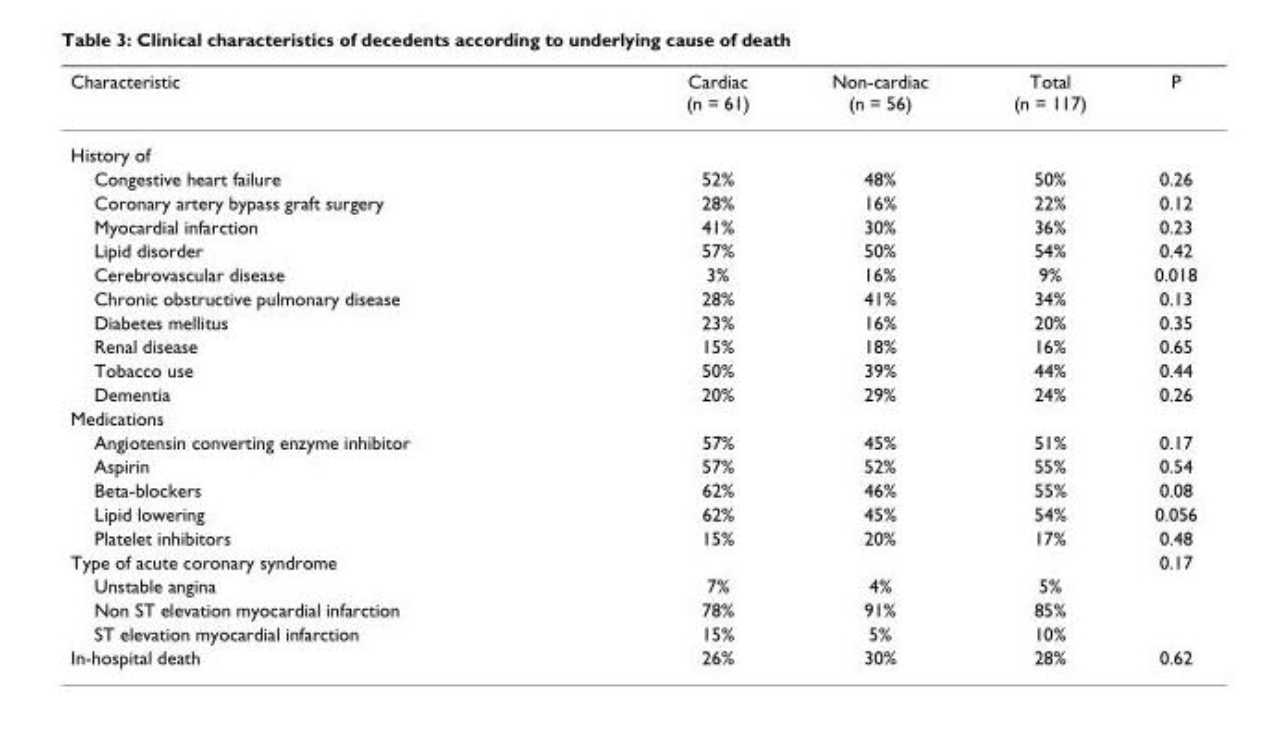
<table><thead><tr><td>Characteristic</td><td>Cardiac (n = 61)</td><td>Non-cardiac (n = 56)</td><td>Total (n = 117)</td><td>P</td></tr></thead><tbody><tr><td colspan="5">History of</td></tr><tr><td>Congestive heart failure</td><td>52%</td><td>48%</td><td>50%</td><td>0.26</td></tr><tr><td>Coronary artery bypass graft surgery</td><td>28%</td><td>16%</td><td>22%</td><td>0.12</td></tr><tr><td>Myocardial infarction</td><td>41%</td><td>30%</td><td>36%</td><td>0.23</td></tr><tr><td>Lipid disorder</td><td>57%</td><td>50%</td><td>54%</td><td>0.42</td></tr><tr><td>Cerebrovascular disease</td><td>3%</td><td>16%</td><td>9%</td><td>0.018</td></tr><tr><td>Chronic obstructive pulmonary disease</td><td>28%</td><td>41%</td><td>34%</td><td>0.13</td></tr><tr><td>Diabetes mellitus</td><td>23%</td><td>16%</td><td>20%</td><td>0.35</td></tr><tr><td>Renal disease</td><td>15%</td><td>18%</td><td>16%</td><td>0.65</td></tr><tr><td>Tobacco use</td><td>50%</td><td>39%</td><td>44%</td><td>0.44</td></tr><tr><td>Dementia</td><td>20%</td><td>29%</td><td>24%</td><td>0.26</td></tr><tr><td colspan="5">Medications</td></tr><tr><td>Angiotensin converting enzyme inhibitor</td><td>57%</td><td>45%</td><td>51%</td><td>0.17</td></tr><tr><td>Aspirin</td><td>57%</td><td>52%</td><td>55%</td><td>0.54</td></tr><tr><td>Beta-blockers</td><td>62%</td><td>46%</td><td>55%</td><td>0.08</td></tr><tr><td>Lipid lowering</td><td>62%</td><td>45%</td><td>54%</td><td>0.056</td></tr><tr><td>Platelet inhibitors</td><td>15%</td><td>20%</td><td>17%</td><td>0.48</td></tr><tr><td>Type of acute coronary syndrome</td><td></td><td></td><td></td><td>0.17</td></tr><tr><td>Unstable angina</td><td>7%</td><td>4%</td><td>5%</td><td></td></tr><tr><td>Non ST elevation myocardial infarction</td><td>78%</td><td>91%</td><td>85%</td><td></td></tr><tr><td>ST elevation myocardial infarction</td><td>15%</td><td>5%</td><td>10%</td><td></td></tr><tr><td>In-hospital death</td><td>26%</td><td>30%</td><td>28%</td><td>0.62</td></tr></tbody></table>